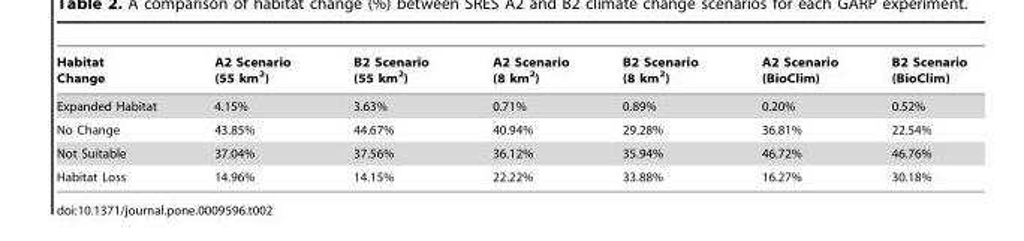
<table><thead><tr><td>Habitat Change</td><td>A2 Scenario (55 km<sup>2</sup>)</td><td>B2 Scenario (55 km<sup>2</sup>)</td><td>A2 Scenario (8 km<sup>2</sup>)</td><td>B2 Scenario (8 km<sup>2</sup>)</td><td>A2 Scenario (BioClim)</td><td>B2 Scenario (BioClim)</td></tr></thead><tbody><tr><td>Expanded Habitat</td><td>4.15%</td><td>3.63%</td><td>0.71%</td><td>0.89%</td><td>0.20%</td><td>0.52%</td></tr><tr><td>No Change</td><td>43.85%</td><td>44.67%</td><td>40.94%</td><td>29.28%</td><td>36.81%</td><td>22.54%</td></tr><tr><td>Not Suitable</td><td>37.04%</td><td>37.56%</td><td>36.12%</td><td>35.94%</td><td>46.72%</td><td>46.76%</td></tr><tr><td>Habitat Loss</td><td>14.96%</td><td>14.15%</td><td>22.22%</td><td>33.88%</td><td>16.27%</td><td>30.18%</td></tr></tbody></table>